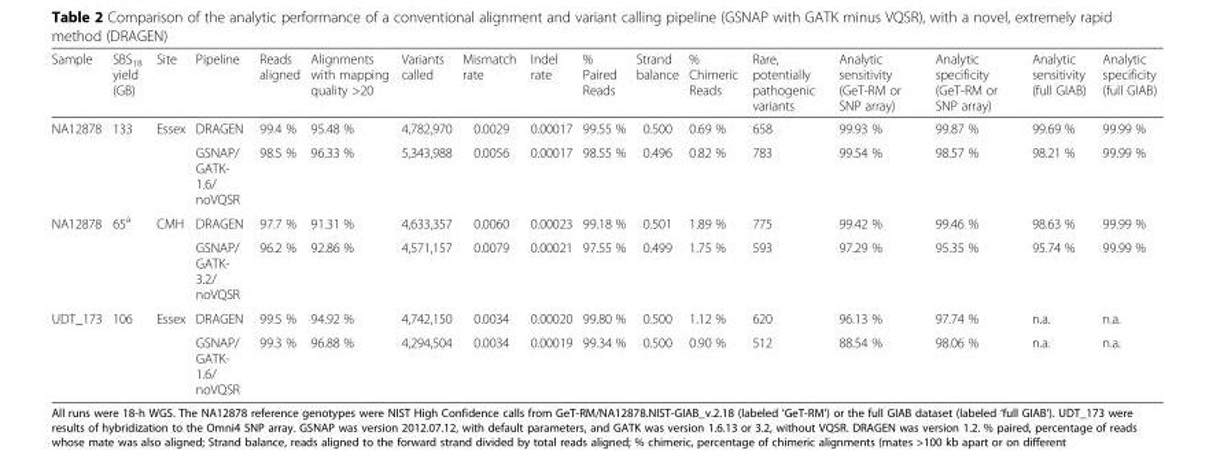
<table><thead><tr><td>Sample</td><td>SBS<sub>18</sub> yield (GB)</td><td>Site</td><td>Pipeline</td><td>Reads aligned</td><td>Alignments with mapping quality &gt;20</td><td>Variants called</td><td>Mismatch rate</td><td>Indel rate</td><td>% Paired Reads</td><td>Strand balance</td><td>% Chimeric Reads</td><td>Rare, potentially pathogenic variants</td><td>Analytic sensitivity (GeT-RM or SNP array)</td><td>Analytic specificity (GeT-RM or SNP array)</td><td>Analytic sensitivity (full GIAB)</td><td>Analytic specificity (full GIAB)</td></tr></thead><tbody><tr><td rowspan="2">NA12878</td><td rowspan="2">133</td><td rowspan="2">Essex</td><td>DRAGEN</td><td>99.4 %</td><td>95.48 %</td><td>4,782,970</td><td>0.0029</td><td>0.00017</td><td>99.55 %</td><td>0.500</td><td>0.69 %</td><td>658</td><td>99.93 %</td><td>99.87 %</td><td>99.69 %</td><td>99.99 %</td></tr><tr><td>GSNAP/ GATK- 1.6/ noVQSR</td><td>98.5 %</td><td>96.33 %</td><td>5,343,988</td><td>0.0056</td><td>0.00017</td><td>98.55 %</td><td>0.496</td><td>0.82 %</td><td>783</td><td>99.54 %</td><td>98.57 %</td><td>98.21 %</td><td>99.99 %</td></tr><tr><td rowspan="2">NA12878</td><td rowspan="2">65<sup>a</sup></td><td rowspan="2">CMH</td><td>DRAGEN</td><td>97.7 %</td><td>91.31 %</td><td>4,633,357</td><td>0.0060</td><td>0.00023</td><td>99.18 %</td><td>0.501</td><td>1.89 %</td><td>775</td><td>99.42 %</td><td>99.46 %</td><td>98.63 %</td><td>99.99 %</td></tr><tr><td>GSNAP/ GATK- 3.2/ noVQSR</td><td>96.2 %</td><td>92.86 %</td><td>4,571,157</td><td>0.0079</td><td>0.00021</td><td>97.55 %</td><td>0.499</td><td>1.75 %</td><td>593</td><td>97.29 %</td><td>95.35 %</td><td>95.74 %</td><td>99.99 %</td></tr><tr><td rowspan="2">UDT_173</td><td rowspan="2">106</td><td rowspan="2">Essex</td><td>DRAGEN</td><td>99.5 %</td><td>94.92 %</td><td>4,742,150</td><td>0.0034</td><td>0.00020</td><td>99.80 %</td><td>0.500</td><td>1.12 %</td><td>620</td><td>96.13 %</td><td>97.74 %</td><td>n.a.</td><td>n.a.</td></tr><tr><td>GSNAP/ GATK- 1.6/ noVQSR</td><td>99.3 %</td><td>96.88 %</td><td>4,294,504</td><td>0.0034</td><td>0.00019</td><td>99.34 %</td><td>0.500</td><td>0.90 %</td><td>512</td><td>88.54 %</td><td>98.06 %</td><td>n.a.</td><td>n.a.</td></tr></tbody></table>